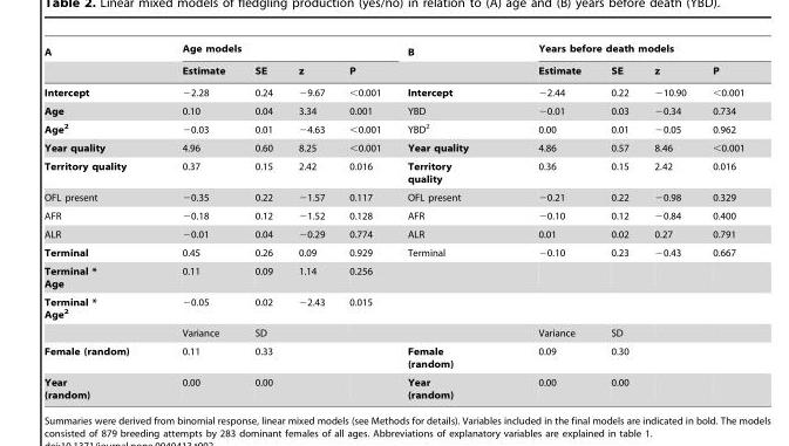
<table><thead><tr><td rowspan="2">A</td><td colspan="4">Age models</td><td rowspan="2">B</td><td colspan="4">Years before death models</td></tr><tr><td>Estimate</td><td>SE</td><td>z</td><td>P</td><td>Estimate</td><td>SE</td><td>z</td><td>P</td></tr></thead><tbody><tr><td>Intercept</td><td>−2.28</td><td>0.24</td><td>−9.67</td><td>&lt;0.001</td><td>Intercept</td><td>−2.44</td><td>0.22</td><td>−10.90</td><td>&lt;0.001</td></tr><tr><td>Age</td><td>0.10</td><td>0.04</td><td>3.34</td><td>0.001</td><td>YBD</td><td>−0.01</td><td>0.03</td><td>−0.34</td><td>0.734</td></tr><tr><td>Age<sup>2</sup></td><td>−0.03</td><td>0.01</td><td>−4.63</td><td>&lt;0.001</td><td>YBD<sup>2</sup></td><td>0.00</td><td>0.01</td><td>−0.05</td><td>0.962</td></tr><tr><td>Year quality</td><td>4.96</td><td>0.60</td><td>8.25</td><td>&lt;0.001</td><td>Year quality</td><td>4.86</td><td>0.57</td><td>8.46</td><td>&lt;0.001</td></tr><tr><td>Territory quality</td><td>0.37</td><td>0.15</td><td>2.42</td><td>0.016</td><td>Territory quality</td><td>0.36</td><td>0.15</td><td>2.42</td><td>0.016</td></tr><tr><td>OFL present</td><td>−0.35</td><td>0.22</td><td>−1.57</td><td>0.117</td><td>OFL present</td><td>−0.21</td><td>0.22</td><td>−0.98</td><td>0.329</td></tr><tr><td>AFR</td><td>−0.18</td><td>0.12</td><td>−1.52</td><td>0.128</td><td>AFR</td><td>−0.10</td><td>0.12</td><td>−0.84</td><td>0.400</td></tr><tr><td>ALR</td><td>−0.01</td><td>0.04</td><td>−0.29</td><td>0.774</td><td>ALR</td><td>0.01</td><td>0.02</td><td>0.27</td><td>0.791</td></tr><tr><td>Terminal</td><td>0.45</td><td>0.26</td><td>0.09</td><td>0.929</td><td>Terminal</td><td>−0.10</td><td>0.23</td><td>−0.43</td><td>0.667</td></tr><tr><td>Terminal * Age</td><td>0.11</td><td>0.09</td><td>1.14</td><td>0.256</td><td></td><td></td><td></td><td></td><td></td></tr><tr><td rowspan="2">Terminal * Age<sup>2</sup></td><td>−0.05</td><td>0.02</td><td>−2.43</td><td>0.015</td><td></td><td></td><td></td><td></td><td></td></tr><tr><td>Variance</td><td>SD</td><td></td><td></td><td></td><td>Variance</td><td>SD</td><td></td><td></td></tr><tr><td>Female (random)</td><td>0.11</td><td>0.33</td><td></td><td></td><td>Female (random)</td><td>0.09</td><td>0.30</td><td></td><td></td></tr><tr><td>Year (random)</td><td>0.00</td><td>0.00</td><td></td><td></td><td>Year (random)</td><td>0.00</td><td>0.00</td><td></td><td></td></tr></tbody></table>